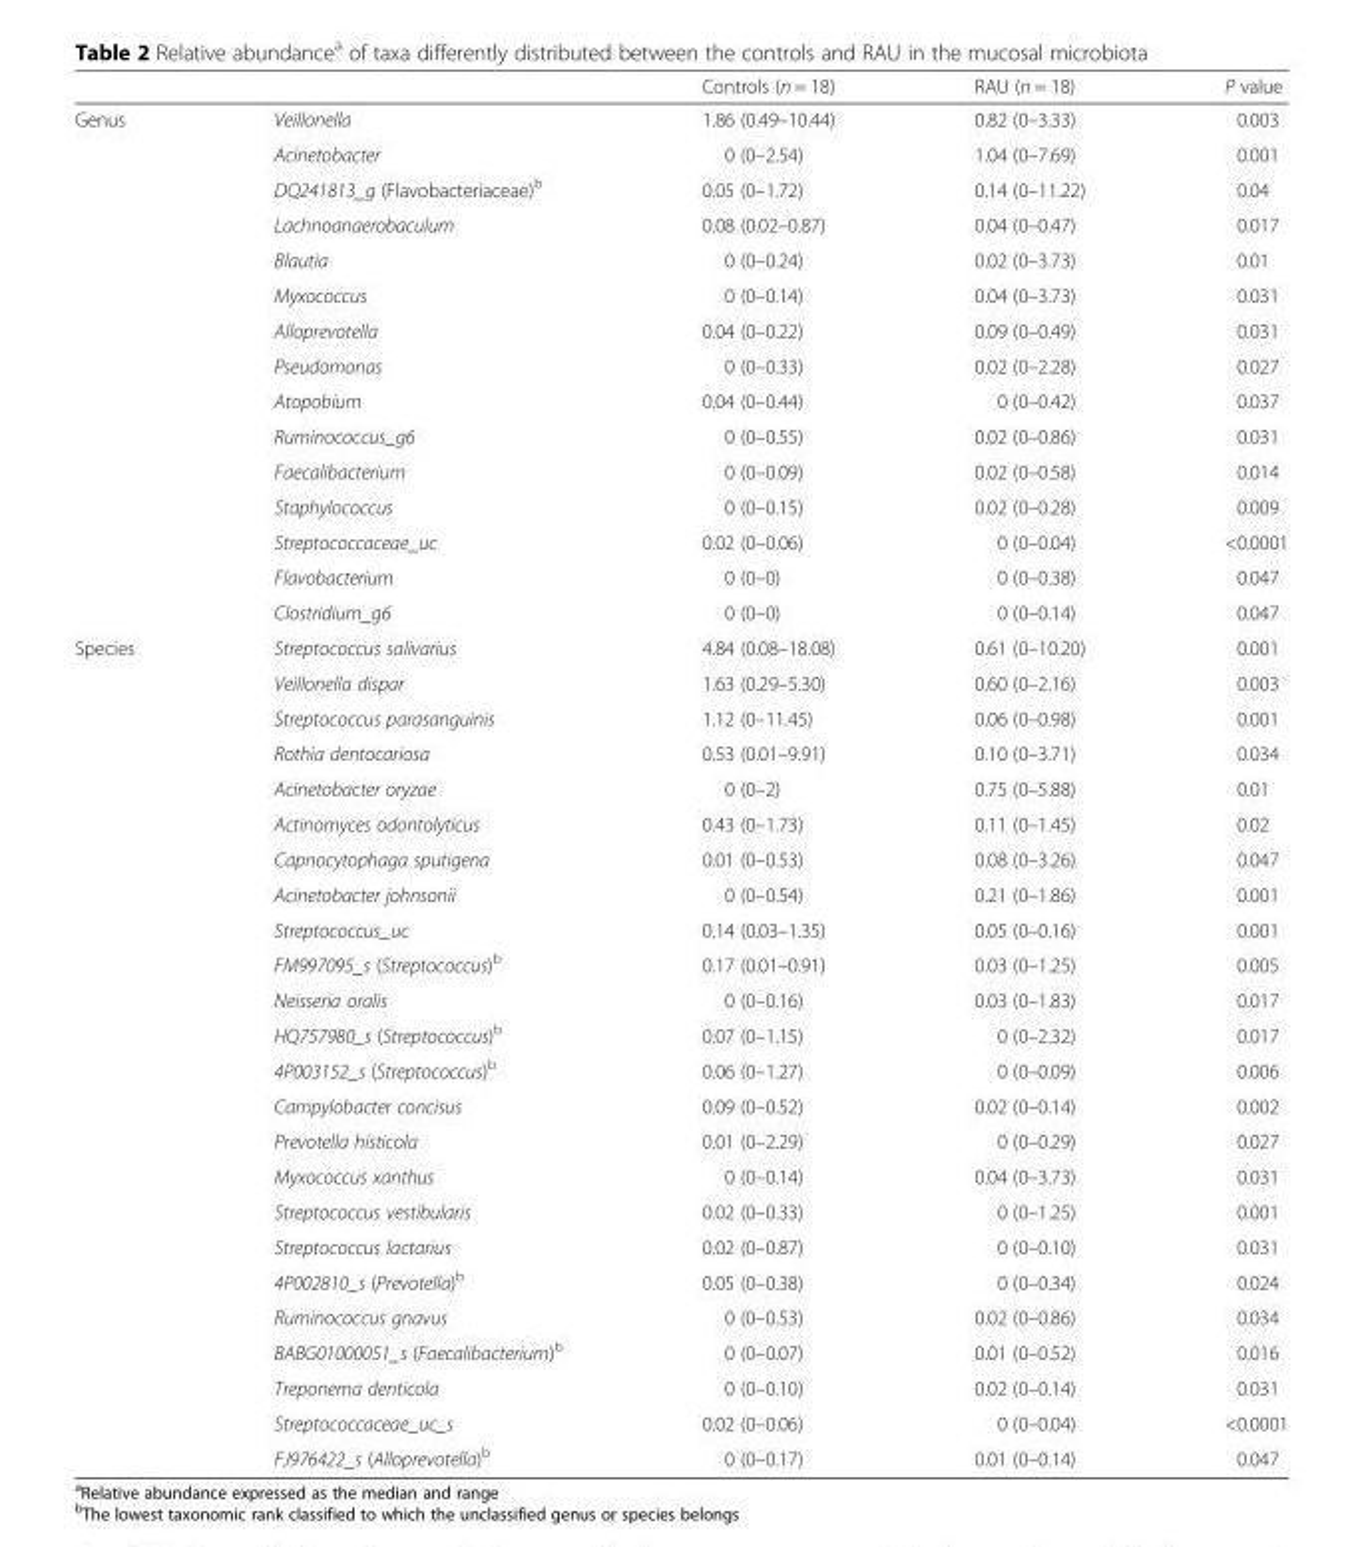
<table><thead><tr><td></td><td></td><td>Controls (n = 18)</td><td>RAU (n = 18)</td><td>P value</td></tr></thead><tbody><tr><td rowspan="15">Genus</td><td>Veillonella</td><td>1.86 (0.49–10.44)</td><td>0.82 (0–3.33)</td><td>0.003</td></tr><tr><td>Acinetobacter</td><td>0 (0–2.54)</td><td>1.04 (0–7.69)</td><td>0.001</td></tr><tr><td>DQ241813_g (Flavobacteriaceae)<sup>b</sup></td><td>0.05 (0–1.72)</td><td>0.14 (0–11.22)</td><td>0.04</td></tr><tr><td>Lachnoanaerobaculum</td><td>0.08 (0.02–0.87)</td><td>0.04 (0–0.47)</td><td>0.017</td></tr><tr><td>Blautia</td><td>0 (0–0.24)</td><td>0.02 (0–3.73)</td><td>0.01</td></tr><tr><td>Myxococcus</td><td>0 (0–0.14)</td><td>0.04 (0–3.73)</td><td>0.031</td></tr><tr><td>Alloprevotella</td><td>0.04 (0–0.22)</td><td>0.09 (0–0.49)</td><td>0.031</td></tr><tr><td>Pseudomonas</td><td>0 (0–0.33)</td><td>0.02 (0–2.28)</td><td>0.027</td></tr><tr><td>Atopobium</td><td>0.04 (0–0.44)</td><td>0 (0–0.42)</td><td>0.037</td></tr><tr><td>Ruminococcus_g6</td><td>0 (0–0.55)</td><td>0.02 (0–0.86)</td><td>0.031</td></tr><tr><td>Faecalibacterium</td><td>0 (0–0.09)</td><td>0.02 (0–0.58)</td><td>0.014</td></tr><tr><td>Staphylococcus</td><td>0 (0–0.15)</td><td>0.02 (0–0.28)</td><td>0.009</td></tr><tr><td>Streptococcaceae_uc</td><td>0.02 (0–0.06)</td><td>0 (0–0.04)</td><td>&lt;0.0001</td></tr><tr><td>Flavobacterium</td><td>0 (0–0)</td><td>0 (0–0.38)</td><td>0.047</td></tr><tr><td>Clostridium_g6</td><td>0 (0–0)</td><td>0 (0–0.14)</td><td>0.047</td></tr><tr><td rowspan="24">Species</td><td>Streptococcus salivarius</td><td>4.84 (0.08–18.08)</td><td>0.61 (0–10.20)</td><td>0.001</td></tr><tr><td>Veillonella dispar</td><td>1.63 (0.29–5.30)</td><td>0.60 (0–2.16)</td><td>0.003</td></tr><tr><td>Streptococcus parasanguinis</td><td>1.12 (0–11.45)</td><td>0.06 (0–0.98)</td><td>0.001</td></tr><tr><td>Rothia dentocariosa</td><td>0.53 (0.01–9.91)</td><td>0.10 (0–3.71)</td><td>0.034</td></tr><tr><td>Acinetobacter oryzae</td><td>0 (0–2)</td><td>0.75 (0–5.88)</td><td>0.01</td></tr><tr><td>Actinomyces odontolyticus</td><td>0.43 (0–1.73)</td><td>0.11 (0–1.45)</td><td>0.02</td></tr><tr><td>Capnocytophaga sputigena</td><td>0.01 (0–0.53)</td><td>0.08 (0–3.26)</td><td>0.047</td></tr><tr><td>Acinetobacter johnsonii</td><td>0 (0–0.54)</td><td>0.21 (0–1.86)</td><td>0.001</td></tr><tr><td>Streptococcus_uc</td><td>0.14 (0.03–1.35)</td><td>0.05 (0–0.16)</td><td>0.001</td></tr><tr><td>FM997095_s (Streptococcus)<sup>b</sup></td><td>0.17 (0.01–0.91)</td><td>0.03 (0–1.25)</td><td>0.005</td></tr><tr><td>Neisseria oralis</td><td>0 (0–0.16)</td><td>0.03 (0–1.83)</td><td>0.017</td></tr><tr><td>HQ757980_s (Streptococcus)<sup>b</sup></td><td>0.07 (0–1.15)</td><td>0 (0–2.32)</td><td>0.017</td></tr><tr><td>4P003152_s (Streptococcus)<sup>b</sup></td><td>0.06 (0–1.27)</td><td>0 (0–0.09)</td><td>0.006</td></tr><tr><td>Campylobacter concisus</td><td>0.09 (0–0.52)</td><td>0.02 (0–0.14)</td><td>0.002</td></tr><tr><td>Prevotella histicola</td><td>0.01 (0–2.29)</td><td>0 (0–0.29)</td><td>0.027</td></tr><tr><td>Myxococcus xanthus</td><td>0 (0–0.14)</td><td>0.04 (0–3.73)</td><td>0.031</td></tr><tr><td>Streptococcus vestibularis</td><td>0.02 (0–0.33)</td><td>0 (0–1.25)</td><td>0.001</td></tr><tr><td>Streptococcus lactarius</td><td>0.02 (0–0.87)</td><td>0 (0–0.10)</td><td>0.031</td></tr><tr><td>4P002810_s (Prevotella)<sup>b</sup></td><td>0.05 (0–0.38)</td><td>0 (0–0.34)</td><td>0.024</td></tr><tr><td>Ruminococcus gnavus</td><td>0 (0–0.53)</td><td>0.02 (0–0.86)</td><td>0.034</td></tr><tr><td>BABG01000051_s (Faecalibacterium)<sup>b</sup></td><td>0 (0–0.07)</td><td>0.01 (0–0.52)</td><td>0.016</td></tr><tr><td>Treponema denticola</td><td>0 (0–0.10)</td><td>0.02 (0–0.14)</td><td>0.031</td></tr><tr><td>Streptococcaceae_uc_s</td><td>0.02 (0–0.06)</td><td>0 (0–0.04)</td><td>&lt;0.0001</td></tr><tr><td>FJ976422_s (Alloprevotella)<sup>b</sup></td><td>0 (0–0.17)</td><td>0.01 (0–0.14)</td><td>0.047</td></tr></tbody></table>